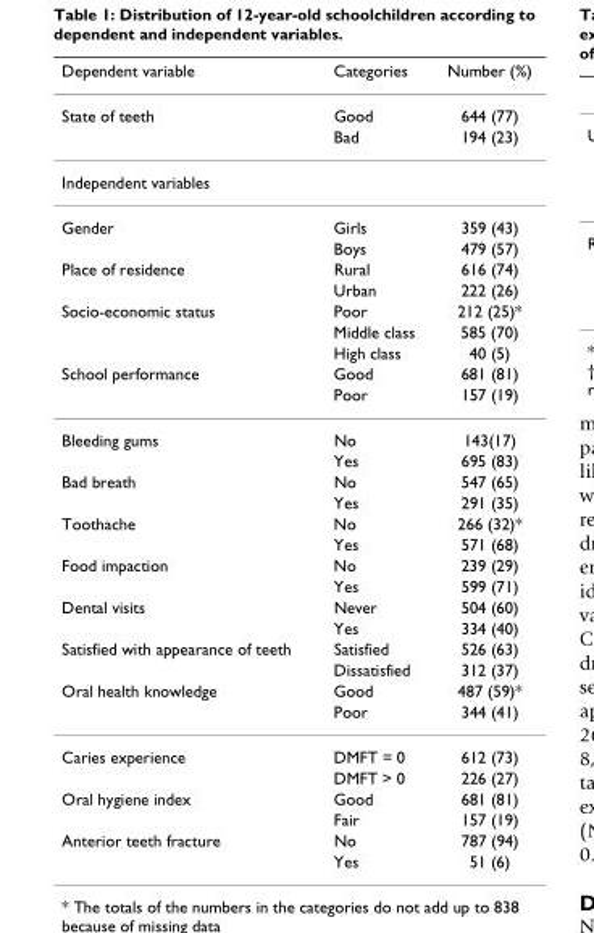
<table><thead><tr><td>Dependent variable</td><td>Categories</td><td>Number (%)</td></tr></thead><tbody><tr><td rowspan="2">State of teeth</td><td>Good</td><td>644 (77)</td></tr><tr><td>Bad</td><td>194 (23)</td></tr><tr><td colspan="3">Independent variables</td></tr><tr><td rowspan="2">Gender</td><td>Girls</td><td>359 (43)</td></tr><tr><td>Boys</td><td>479 (57)</td></tr><tr><td rowspan="2">Place of residence</td><td>Rural</td><td>616 (74)</td></tr><tr><td>Urban</td><td>222 (26)</td></tr><tr><td rowspan="3">Socio-economic status</td><td>Poor</td><td>212 (25)*</td></tr><tr><td>Middle class</td><td>585 (70)</td></tr><tr><td>High class</td><td>40 (5)</td></tr><tr><td rowspan="2">School performance</td><td>Good</td><td>681 (81)</td></tr><tr><td>Poor</td><td>157 (19)</td></tr><tr><td rowspan="2">Bleeding gums</td><td>No</td><td>143(17)</td></tr><tr><td>Yes</td><td>695 (83)</td></tr><tr><td rowspan="2">Bad breath</td><td>No</td><td>547 (65)</td></tr><tr><td>Yes</td><td>291 (35)</td></tr><tr><td rowspan="2">Toothache</td><td>No</td><td>266 (32)*</td></tr><tr><td>Yes</td><td>571 (68)</td></tr><tr><td rowspan="2">Food impaction</td><td>No</td><td>239 (29)</td></tr><tr><td>Yes</td><td>599 (71)</td></tr><tr><td rowspan="2">Dental visits</td><td>Never</td><td>504 (60)</td></tr><tr><td>Yes</td><td>334 (40)</td></tr><tr><td rowspan="2">Satisfied with appearance of teeth</td><td>Satisfied</td><td>526 (63)</td></tr><tr><td>Dissatisfied</td><td>312 (37)</td></tr><tr><td rowspan="2">Oral health knowledge</td><td>Good</td><td>487 (59)*</td></tr><tr><td>Poor</td><td>344 (41)</td></tr><tr><td rowspan="2">Caries experience</td><td>DMFT = 0</td><td>612 (73)</td></tr><tr><td>DMFT &gt; 0</td><td>226 (27)</td></tr><tr><td rowspan="2">Oral hygiene index</td><td>Good</td><td>681 (81)</td></tr><tr><td>Fair</td><td>157 (19)</td></tr><tr><td rowspan="2">Anterior teeth fracture</td><td>No</td><td>787 (94)</td></tr><tr><td>Yes</td><td>51 (6)</td></tr></tbody></table>